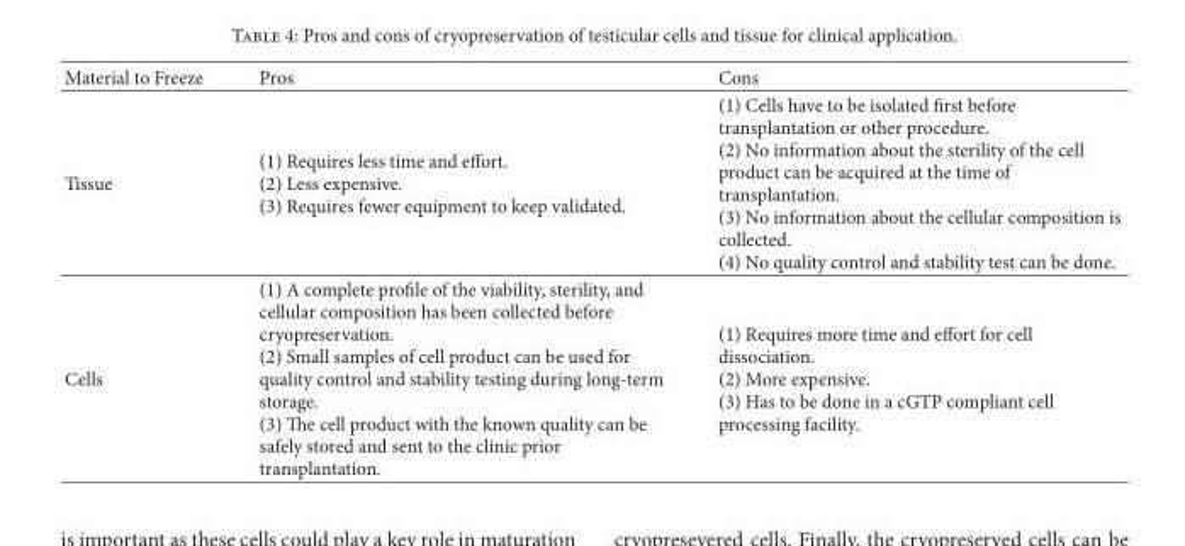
<table><thead><tr><td>Material to Freeze</td><td>Pros</td><td>Cons</td></tr></thead><tbody><tr><td>Tissue</td><td>(1) Requires less time and effort. (2) Less expensive. (3) Requires fewer equipment to keep validated.</td><td>(1) Cells have to be isolated �rst before transplantation or other procedure. (2) No information about the sterility of the cell product can be acquired at the time of transplantation. (3) No information about the cellular composition is collected. (4) No quality control and stability test can be done.</td></tr><tr><td>Cells</td><td>(1) A complete pro�le of the viability, sterility, and cellular composition has been collected before cryopreservation. (2) Small samples of cell product can be used for quality control and stability testing during long-term storage. (3) e cell product with the known quality can be safely stored and sent to the clinic prior transplantation.</td><td>(1) Requires more time and effort for cell dissociation. (2) More expensive. (3) Has to be done in a cGTP compliant cell processing facility.</td></tr></tbody></table>